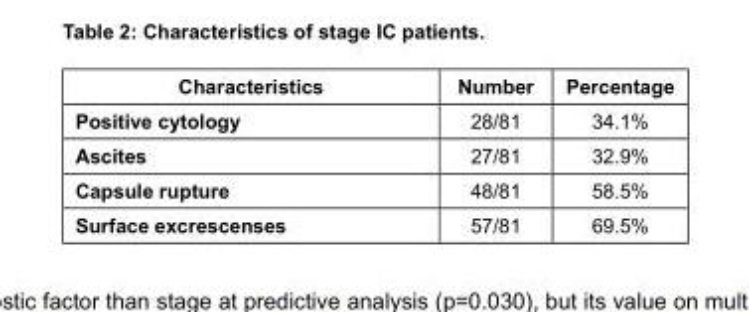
<table><thead><tr><td>Characteristics</td><td>Number</td><td>Percentage</td></tr></thead><tbody><tr><td>Positive cytology</td><td>28/81</td><td>34.1%</td></tr><tr><td>Ascites</td><td>27/81</td><td>32.9%</td></tr><tr><td>Capsule rupture</td><td>48/81</td><td>58.5%</td></tr><tr><td>Surface excrescenses</td><td>57/81</td><td>69.5%</td></tr></tbody></table>